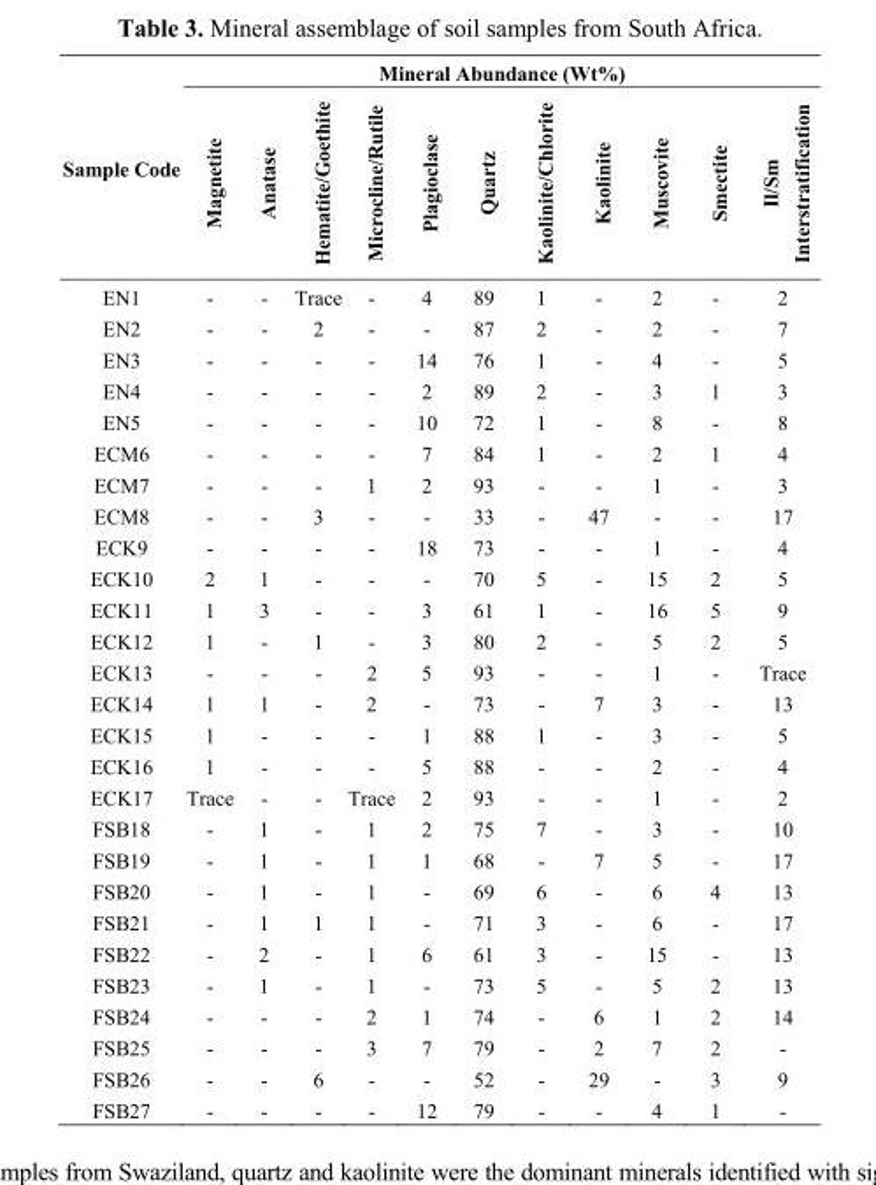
<table><thead><tr><td rowspan="2">Sample Code</td><td colspan="11">Mineral Abundance (Wt%)</td></tr><tr><td>Magnetite</td><td>Anatase</td><td>Hematite/Goethite</td><td>Microcline/Rutile</td><td>Plagioclase</td><td>Quartz</td><td>Kaolinite/Chlorite</td><td>Kaolinite</td><td>Muscovite</td><td>Smectite</td><td>Il/Sm Interstratification</td></tr></thead><tbody><tr><td>EN1</td><td>-</td><td>-</td><td>Trace</td><td>-</td><td>4</td><td>89</td><td>1</td><td>-</td><td>2</td><td>-</td><td>2</td></tr><tr><td>EN2</td><td>-</td><td>-</td><td>2</td><td>-</td><td>-</td><td>87</td><td>2</td><td>-</td><td>2</td><td>-</td><td>7</td></tr><tr><td>EN3</td><td>-</td><td>-</td><td>-</td><td>-</td><td>14</td><td>76</td><td>1</td><td>-</td><td>4</td><td>-</td><td>5</td></tr><tr><td>EN4</td><td>-</td><td>-</td><td>-</td><td>-</td><td>2</td><td>89</td><td>2</td><td>-</td><td>3</td><td>1</td><td>3</td></tr><tr><td>EN5</td><td>-</td><td>-</td><td>-</td><td>-</td><td>10</td><td>72</td><td>1</td><td>-</td><td>8</td><td>-</td><td>8</td></tr><tr><td>ECM6</td><td>-</td><td>-</td><td>-</td><td>-</td><td>7</td><td>84</td><td>1</td><td>-</td><td>2</td><td>1</td><td>4</td></tr><tr><td>ECM7</td><td>-</td><td>-</td><td>-</td><td>1</td><td>2</td><td>93</td><td>-</td><td>-</td><td>1</td><td>-</td><td>3</td></tr><tr><td>ECM8</td><td>-</td><td>-</td><td>3</td><td>-</td><td>-</td><td>33</td><td>-</td><td>47</td><td>-</td><td>-</td><td>17</td></tr><tr><td>ECK9</td><td>-</td><td>-</td><td>-</td><td>-</td><td>18</td><td>73</td><td>-</td><td>-</td><td>1</td><td>-</td><td>4</td></tr><tr><td>ECK10</td><td>2</td><td>1</td><td>-</td><td>-</td><td>-</td><td>70</td><td>5</td><td>-</td><td>15</td><td>2</td><td>5</td></tr><tr><td>ECK11</td><td>1</td><td>3</td><td>-</td><td>-</td><td>3</td><td>61</td><td>1</td><td>-</td><td>16</td><td>5</td><td>9</td></tr><tr><td>ECK12</td><td>1</td><td>-</td><td>1</td><td>-</td><td>3</td><td>80</td><td>2</td><td>-</td><td>5</td><td>2</td><td>5</td></tr><tr><td>ECK13</td><td>-</td><td>-</td><td>-</td><td>2</td><td>5</td><td>93</td><td>-</td><td>-</td><td>1</td><td>-</td><td>Trace</td></tr><tr><td>ECK14</td><td>1</td><td>1</td><td>-</td><td>2</td><td>-</td><td>73</td><td>-</td><td>7</td><td>3</td><td>-</td><td>13</td></tr><tr><td>ECK15</td><td>1</td><td>-</td><td>-</td><td>-</td><td>1</td><td>88</td><td>1</td><td>-</td><td>3</td><td>-</td><td>5</td></tr><tr><td>ECK16</td><td>1</td><td>-</td><td>-</td><td>-</td><td>5</td><td>88</td><td>-</td><td>-</td><td>2</td><td>-</td><td>4</td></tr><tr><td>ECK17</td><td>Trace</td><td>-</td><td>-</td><td>Trace</td><td>2</td><td>93</td><td>-</td><td>-</td><td>1</td><td>-</td><td>2</td></tr><tr><td>FSB18</td><td>-</td><td>1</td><td>-</td><td>1</td><td>2</td><td>75</td><td>7</td><td>-</td><td>3</td><td>-</td><td>10</td></tr><tr><td>FSB19</td><td>-</td><td>1</td><td>-</td><td>1</td><td>1</td><td>68</td><td>-</td><td>7</td><td>5</td><td>-</td><td>17</td></tr><tr><td>FSB20</td><td>-</td><td>1</td><td>-</td><td>1</td><td>-</td><td>69</td><td>6</td><td>-</td><td>6</td><td>4</td><td>13</td></tr><tr><td>FSB21</td><td>-</td><td>1</td><td>1</td><td>1</td><td>-</td><td>71</td><td>3</td><td>-</td><td>6</td><td>-</td><td>17</td></tr><tr><td>FSB22</td><td>-</td><td>2</td><td>-</td><td>1</td><td>6</td><td>61</td><td>3</td><td>-</td><td>15</td><td>-</td><td>13</td></tr><tr><td>FSB23</td><td>-</td><td>1</td><td>-</td><td>1</td><td>-</td><td>73</td><td>5</td><td>-</td><td>5</td><td>2</td><td>13</td></tr><tr><td>FSB24</td><td>-</td><td>-</td><td>-</td><td>2</td><td>1</td><td>74</td><td>-</td><td>6</td><td>1</td><td>2</td><td>14</td></tr><tr><td>FSB25</td><td>-</td><td>-</td><td>-</td><td>3</td><td>7</td><td>79</td><td>-</td><td>2</td><td>7</td><td>2</td><td>-</td></tr><tr><td>FSB26</td><td>-</td><td>-</td><td>6</td><td>-</td><td>-</td><td>52</td><td>-</td><td>29</td><td>-</td><td>3</td><td>9</td></tr><tr><td>FSB27</td><td>-</td><td>-</td><td>-</td><td>-</td><td>12</td><td>79</td><td>-</td><td>-</td><td>4</td><td>1</td><td>-</td></tr></tbody></table>